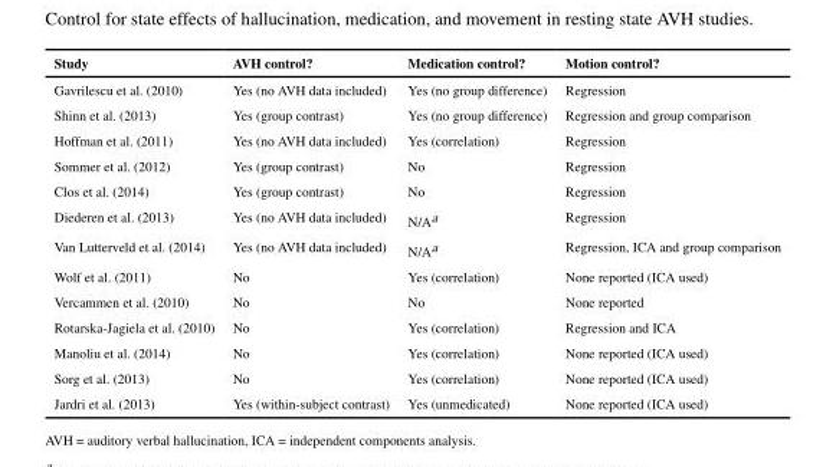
<table><thead><tr><td>Study</td><td>AVH control?</td><td>Medication control?</td><td>Motion control?</td></tr></thead><tbody><tr><td>Gavrilescu et al. (2010)</td><td>Yes (no AVH data included)</td><td>Yes (no group difference)</td><td>Regression</td></tr><tr><td>Shinn et al. (2013)</td><td>Yes (group contrast)</td><td>Yes (no group difference)</td><td>Regression and group comparison</td></tr><tr><td>Hoffman et al. (2011)</td><td>Yes (no AVH data included)</td><td>Yes (correlation)</td><td>Regression</td></tr><tr><td>Sommer et al. (2012)</td><td>Yes (group contrast)</td><td>No</td><td>Regression</td></tr><tr><td>Clos et al. (2014)</td><td>Yes (group contrast)</td><td>No</td><td>Regression</td></tr><tr><td>Diederen et al. (2013)</td><td>Yes (no AVH data included)</td><td>N/A<sup>a</sup></td><td>Regression</td></tr><tr><td>Van Lutterveld et al. (2014)</td><td>Yes (no AVH data included)</td><td>N/A<sup>a</sup></td><td>Regression, ICA and group comparison</td></tr><tr><td>Wolf et al. (2011)</td><td>No</td><td>Yes (correlation)</td><td>None reported (ICA used)</td></tr><tr><td>Vercammen et al. (2010)</td><td>No</td><td>No</td><td>None reported</td></tr><tr><td>Rotarska-Jagiela et al. (2010)</td><td>No</td><td>Yes (correlation)</td><td>Regression and ICA</td></tr><tr><td>Manoliu et al. (2014)</td><td>No</td><td>Yes (correlation)</td><td>None reported (ICA used)</td></tr><tr><td>Sorg et al. (2013)</td><td>No</td><td>Yes (correlation)</td><td>None reported (ICA used)</td></tr><tr><td>Jardri et al. (2013)</td><td>Yes (within-subject contrast)</td><td>Yes (unmedicated)</td><td>None reported (ICA used)</td></tr></tbody></table>